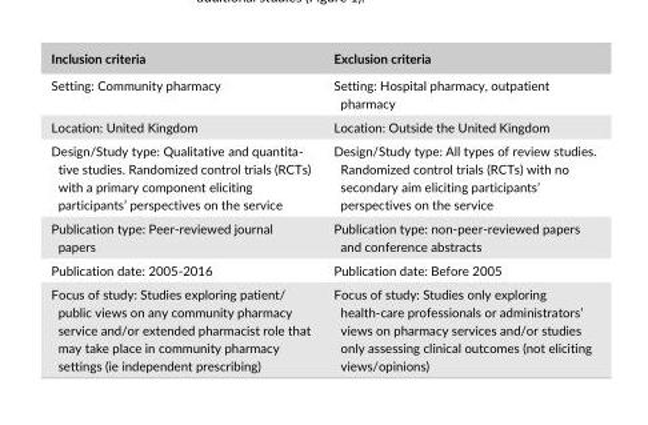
<table><thead><tr><td>Inclusion criteria</td><td>Exclusion criteria</td></tr></thead><tbody><tr><td>Setting: Community pharmacy</td><td>Setting: Hospital pharmacy, outpatient pharmacy</td></tr><tr><td>Location: United Kingdom</td><td>Location: Outside the United Kingdom</td></tr><tr><td>Design/Study type: Qualitative and quantita- tive studies. Randomized control trials (RCTs) with a primary component eliciting participants’ perspectives on the service</td><td>Design/Study type: All types of review studies. Randomized control trials (RCTs) with no secondary aim eliciting participants’ perspectives on the service</td></tr><tr><td>Publication type: Peer- reviewed journal papers</td><td>Publication type: non- peer- reviewed papers and conference abstracts</td></tr><tr><td>Publication date: 2005- 2016</td><td>Publication date: Before 2005</td></tr><tr><td>Focus of study: Studies exploring patient/ public views on any community pharmacy service and/or extended pharmacist role that may take place in community pharmacy settings (ie independent prescribing)</td><td>Focus of study: Studies only exploring health- care professionals or administrators’ views on pharmacy services and/or studies only assessing clinical outcomes (not eliciting views/opinions)</td></tr></tbody></table>